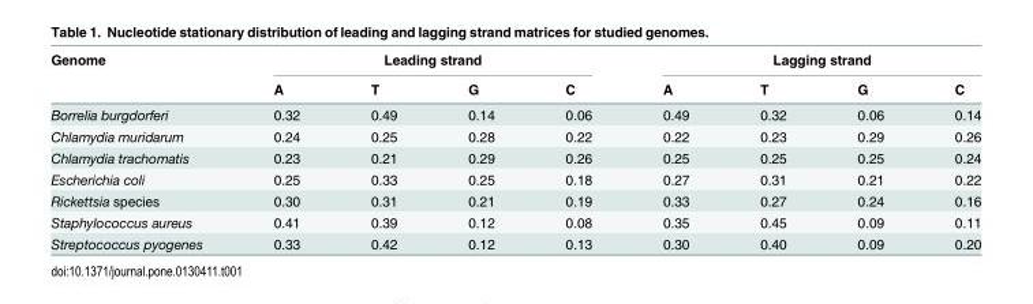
<table><thead><tr><td rowspan="2">Genome</td><td colspan="4">Leading strand</td><td colspan="4">Lagging strand</td></tr><tr><td>A</td><td>T</td><td>G</td><td>C</td><td>A</td><td>T</td><td>G</td><td>C</td></tr></thead><tbody><tr><td>Borrelia burgdorferi</td><td>0.32</td><td>0.49</td><td>0.14</td><td>0.06</td><td>0.49</td><td>0.32</td><td>0.06</td><td>0.14</td></tr><tr><td>Chlamydia muridarum</td><td>0.24</td><td>0.25</td><td>0.28</td><td>0.22</td><td>0.22</td><td>0.23</td><td>0.29</td><td>0.26</td></tr><tr><td>Chlamydia trachomatis</td><td>0.23</td><td>0.21</td><td>0.29</td><td>0.26</td><td>0.25</td><td>0.25</td><td>0.25</td><td>0.24</td></tr><tr><td>Escherichia coli</td><td>0.25</td><td>0.33</td><td>0.25</td><td>0.18</td><td>0.27</td><td>0.31</td><td>0.21</td><td>0.22</td></tr><tr><td>Rickettsia species</td><td>0.30</td><td>0.31</td><td>0.21</td><td>0.19</td><td>0.33</td><td>0.27</td><td>0.24</td><td>0.16</td></tr><tr><td>Staphylococcus aureus</td><td>0.41</td><td>0.39</td><td>0.12</td><td>0.08</td><td>0.35</td><td>0.45</td><td>0.09</td><td>0.11</td></tr><tr><td>Streptococcus pyogenes</td><td>0.33</td><td>0.42</td><td>0.12</td><td>0.13</td><td>0.30</td><td>0.40</td><td>0.09</td><td>0.20</td></tr></tbody></table>